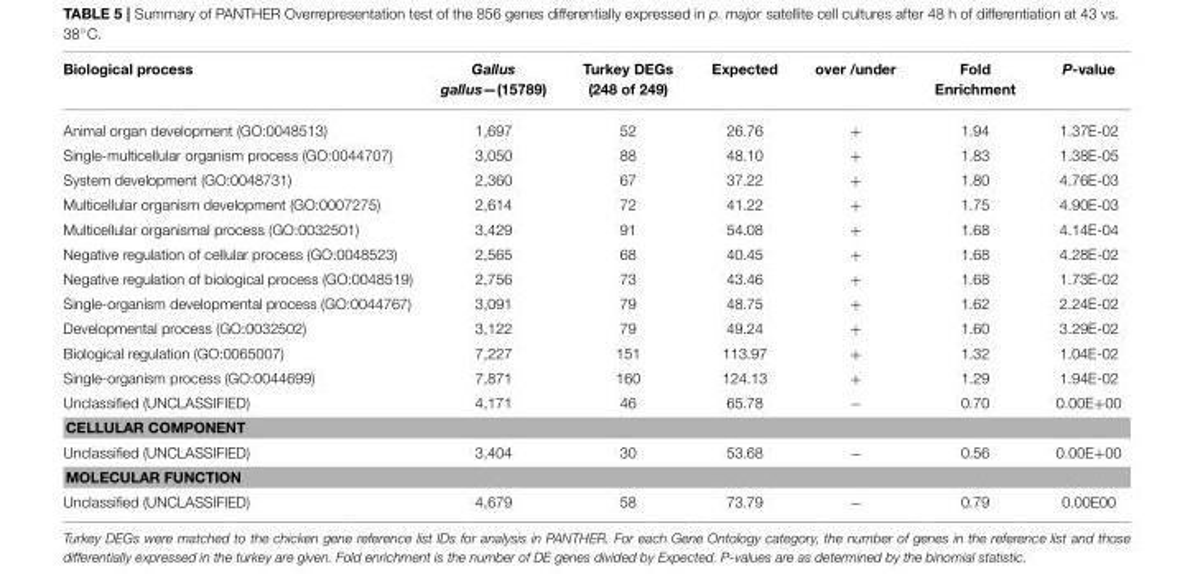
<table><thead><tr><td>Biological process</td><td>Gallus gallus—(15789)</td><td>Turkey DEGs (248 of 249)</td><td>Expected</td><td>over /under</td><td>Fold Enrichment</td><td>P-value</td></tr></thead><tbody><tr><td>Animal organ development (GO:0048513)</td><td>1,697</td><td>52</td><td>26.76</td><td>+</td><td>1.94</td><td>1.37E-02</td></tr><tr><td>Single-multicellular organism process (GO:0044707)</td><td>3,050</td><td>88</td><td>48.10</td><td>+</td><td>1.83</td><td>1.38E-05</td></tr><tr><td>System development (GO:0048731)</td><td>2,360</td><td>67</td><td>37.22</td><td>+</td><td>1.80</td><td>4.76E-03</td></tr><tr><td>Multicellular organism development (GO:0007275)</td><td>2,614</td><td>72</td><td>41.22</td><td>+</td><td>1.75</td><td>4.90E-03</td></tr><tr><td>Multicellular organismal process (GO:0032501)</td><td>3,429</td><td>91</td><td>54.08</td><td>+</td><td>1.68</td><td>4.14E-04</td></tr><tr><td>Negative regulation of cellular process (GO:0048523)</td><td>2,565</td><td>68</td><td>40.45</td><td>+</td><td>1.68</td><td>4.28E-02</td></tr><tr><td>Negative regulation of biological process (GO:0048519)</td><td>2,756</td><td>73</td><td>43.46</td><td>+</td><td>1.68</td><td>1.73E-02</td></tr><tr><td>Single-organism developmental process (GO:0044767)</td><td>3,091</td><td>79</td><td>48.75</td><td>+</td><td>1.62</td><td>2.24E-02</td></tr><tr><td>Developmental process (GO:0032502)</td><td>3,122</td><td>79</td><td>49.24</td><td>+</td><td>1.60</td><td>3.29E-02</td></tr><tr><td>Biological regulation (GO:0065007)</td><td>7,227</td><td>151</td><td>113.97</td><td>+</td><td>1.32</td><td>1.04E-02</td></tr><tr><td>Single-organism process (GO:0044699)</td><td>7,871</td><td>160</td><td>124.13</td><td>+</td><td>1.29</td><td>1.94E-02</td></tr><tr><td>Unclassified (UNCLASSIFIED)</td><td>4,171</td><td>46</td><td>65.78</td><td>−</td><td>0.70</td><td>0.00E+00</td></tr><tr><td colspan="7">CELLULAR COMPONENT</td></tr><tr><td>Unclassified (UNCLASSIFIED)</td><td>3,404</td><td>30</td><td>53.68</td><td>−</td><td>0.56</td><td>0.00E+00</td></tr><tr><td colspan="7">MOLECULAR FUNCTION</td></tr><tr><td>Unclassified (UNCLASSIFIED)</td><td>4,679</td><td>58</td><td>73.79</td><td>−</td><td>0.79</td><td>0.00E00</td></tr></tbody></table>